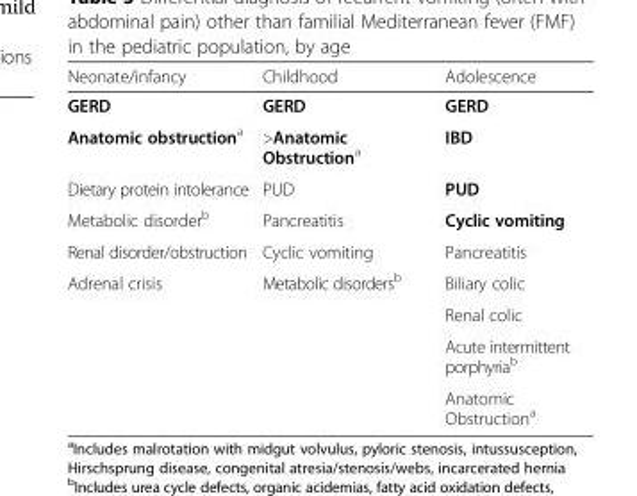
<table><thead><tr><td>Neonate/infancy</td><td>Childhood</td><td>Adolescence</td></tr></thead><tbody><tr><td>GERD</td><td>GERD</td><td>GERD</td></tr><tr><td>Anatomic obstruction<sup>a</sup></td><td>&gt;Anatomic Obstruction<sup>a</sup></td><td>IBD</td></tr><tr><td>Dietary protein intolerance</td><td>PUD</td><td>PUD</td></tr><tr><td>Metabolic disorder<sup>b</sup></td><td>Pancreatitis</td><td>Cyclic vomiting</td></tr><tr><td>Renal disorder/obstruction</td><td>Cyclic vomiting</td><td>Pancreatitis</td></tr><tr><td rowspan="4">Adrenal crisis</td><td>Metabolic disorders<sup>b</sup></td><td>Biliary colic</td></tr><tr><td></td><td>Renal colic</td></tr><tr><td></td><td>Acute intermittent porphyria<sup>b</sup></td></tr><tr><td></td><td>Anatomic Obstruction<sup>a</sup></td></tr></tbody></table>